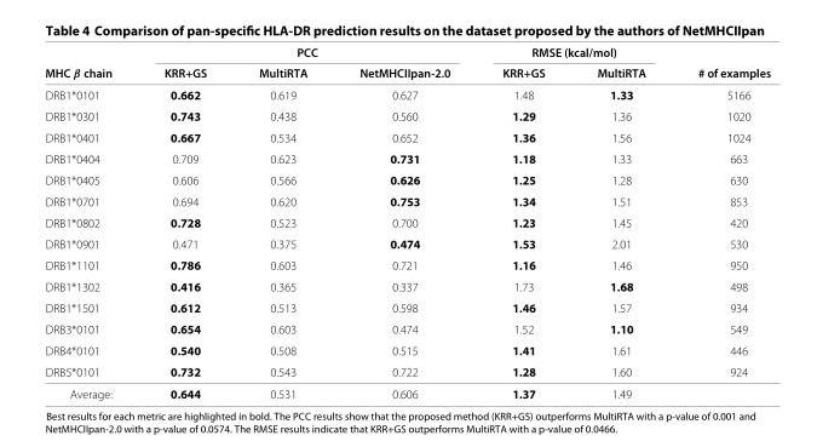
<table><thead><tr><td rowspan="2">MHC β chain</td><td colspan="3">PCC</td><td colspan="2">RMSE (kcal/mol)</td><td rowspan="2"># of examples</td></tr><tr><td>KRR+GS</td><td>MultiRTA</td><td>NetMHCIIpan-2.0</td><td>KRR+GS</td><td>MultiRTA</td></tr></thead><tbody><tr><td>DRB1*0101</td><td>0.662</td><td>0.619</td><td>0.627</td><td>1.48</td><td>1.33</td><td>5166</td></tr><tr><td>DRB1*0301</td><td>0.743</td><td>0.438</td><td>0.560</td><td>1.29</td><td>1.36</td><td>1020</td></tr><tr><td>DRB1*0401</td><td>0.667</td><td>0.534</td><td>0.652</td><td>1.36</td><td>1.56</td><td>1024</td></tr><tr><td>DRB1*0404</td><td>0.709</td><td>0.623</td><td>0.731</td><td>1.18</td><td>1.33</td><td>663</td></tr><tr><td>DRB1*0405</td><td>0.606</td><td>0.566</td><td>0.626</td><td>1.25</td><td>1.28</td><td>630</td></tr><tr><td>DRB1*0701</td><td>0.694</td><td>0.620</td><td>0.753</td><td>1.34</td><td>1.51</td><td>853</td></tr><tr><td>DRB1*0802</td><td>0.728</td><td>0.523</td><td>0.700</td><td>1.23</td><td>1.45</td><td>420</td></tr><tr><td>DRB1*0901</td><td>0.471</td><td>0.375</td><td>0.474</td><td>1.53</td><td>2.01</td><td>530</td></tr><tr><td>DRB1*1101</td><td>0.786</td><td>0.603</td><td>0.721</td><td>1.16</td><td>1.46</td><td>950</td></tr><tr><td>DRB1*1302</td><td>0.416</td><td>0.365</td><td>0.337</td><td>1.73</td><td>1.68</td><td>498</td></tr><tr><td>DRB1*1501</td><td>0.612</td><td>0.513</td><td>0.598</td><td>1.46</td><td>1.57</td><td>934</td></tr><tr><td>DRB3*0101</td><td>0.654</td><td>0.603</td><td>0.474</td><td>1.52</td><td>1.10</td><td>549</td></tr><tr><td>DRB4*0101</td><td>0.540</td><td>0.508</td><td>0.515</td><td>1.41</td><td>1.61</td><td>446</td></tr><tr><td>DRB5*0101</td><td>0.732</td><td>0.543</td><td>0.722</td><td>1.28</td><td>1.60</td><td>924</td></tr><tr><td>Average:</td><td>0.644</td><td>0.531</td><td>0.606</td><td>1.37</td><td>1.49</td><td></td></tr></tbody></table>